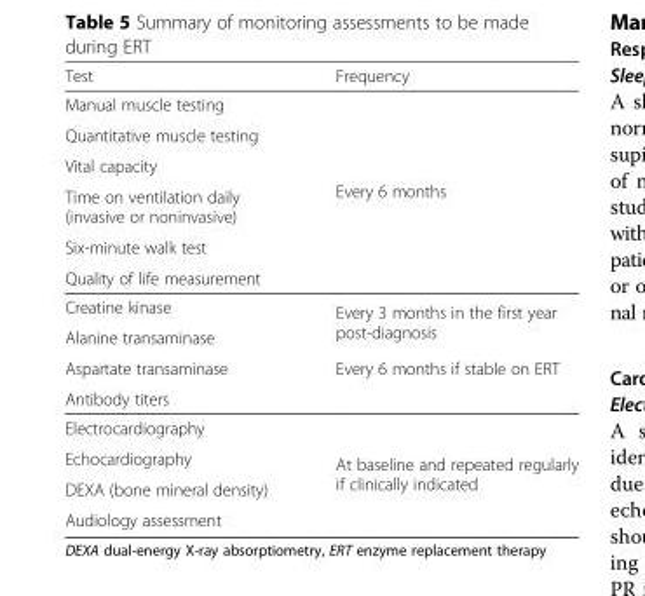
<table><thead><tr><td>Test</td><td>Frequency</td></tr></thead><tbody><tr><td colspan="2">Manual muscle testing</td></tr><tr><td colspan="2">Quantitative muscle testing</td></tr><tr><td>Vital capacity</td><td rowspan="2">Every 6 months</td></tr><tr><td>Time on ventilation daily (invasive or noninvasive)</td></tr><tr><td colspan="2">Six-minute walk test</td></tr><tr><td colspan="2">Quality of life measurement</td></tr><tr><td>Creatine kinase</td><td rowspan="2">Every 3 months in the first year post-diagnosis</td></tr><tr><td>Alanine transaminase</td></tr><tr><td>Aspartate transaminase</td><td>Every 6 months if stable on ERT</td></tr><tr><td colspan="2">Antibody titers</td></tr><tr><td>Electrocardiography</td><td rowspan="4">At baseline and repeated regularly if clinically indicated</td></tr><tr><td>Echocardiography</td></tr><tr><td>DEXA (bone mineral density)</td></tr><tr><td>Audiology assessment</td></tr></tbody></table>